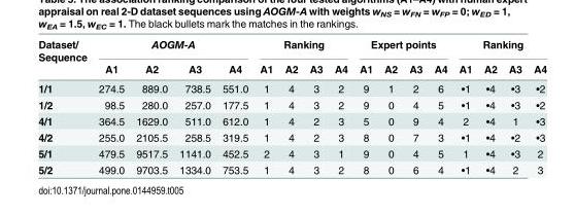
<table><thead><tr><td rowspan="2">Dataset/ Sequence</td><td colspan="4">AOGM-A</td><td colspan="4">Ranking</td><td colspan="4">Expert points</td><td colspan="4">Ranking</td></tr><tr><td>A1</td><td>A2</td><td>A3</td><td>A4</td><td>A1</td><td>A2</td><td>A3</td><td>A4</td><td>A1</td><td>A2</td><td>A3</td><td>A4</td><td>A1</td><td>A2</td><td>A3</td><td>A4</td></tr></thead><tbody><tr><td>1/1</td><td>274.5</td><td>889.0</td><td>738.5</td><td>551.0</td><td>1</td><td>4</td><td>3</td><td>2</td><td>9</td><td>1</td><td>2</td><td>6</td><td>•1</td><td>•4</td><td>•3</td><td>•2</td></tr><tr><td>1/2</td><td>98.5</td><td>280.0</td><td>257.0</td><td>177.5</td><td>1</td><td>4</td><td>3</td><td>2</td><td>9</td><td>0</td><td>4</td><td>5</td><td>•1</td><td>•4</td><td>•3</td><td>•2</td></tr><tr><td>4/1</td><td>364.5</td><td>1629.0</td><td>511.0</td><td>612.0</td><td>1</td><td>4</td><td>2</td><td>3</td><td>5</td><td>0</td><td>9</td><td>4</td><td>2</td><td>•4</td><td>1</td><td>•3</td></tr><tr><td>4/2</td><td>255.0</td><td>2105.5</td><td>258.5</td><td>319.5</td><td>1</td><td>4</td><td>2</td><td>3</td><td>8</td><td>0</td><td>7</td><td>3</td><td>•1</td><td>•4</td><td>•2</td><td>•3</td></tr><tr><td>5/1</td><td>479.5</td><td>9517.5</td><td>1141.0</td><td>452.5</td><td>2</td><td>4</td><td>3</td><td>1</td><td>9</td><td>0</td><td>4</td><td>5</td><td>1</td><td>•4</td><td>•3</td><td>2</td></tr><tr><td>5/2</td><td>499.0</td><td>9703.5</td><td>1334.0</td><td>753.5</td><td>1</td><td>4</td><td>3</td><td>2</td><td>8</td><td>0</td><td>6</td><td>4</td><td>•1</td><td>•4</td><td>2</td><td>3</td></tr></tbody></table>